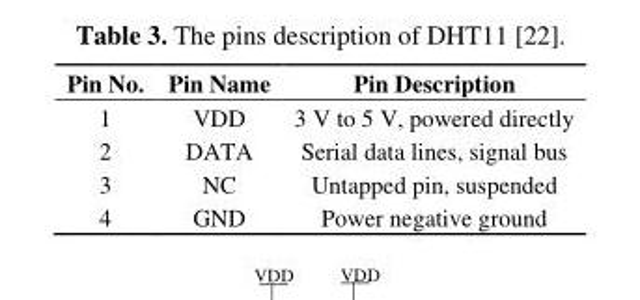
<table><thead><tr><td>Pin No.</td><td>Pin Name</td><td>Pin Description</td></tr></thead><tbody><tr><td>1</td><td>VDD</td><td>3 V to 5 V, powered directly</td></tr><tr><td>2</td><td>DATA</td><td>Serial data lines, signal bus</td></tr><tr><td>3</td><td>NC</td><td>Untapped pin, suspended</td></tr><tr><td>4</td><td>GND</td><td>Power negative ground</td></tr></tbody></table>